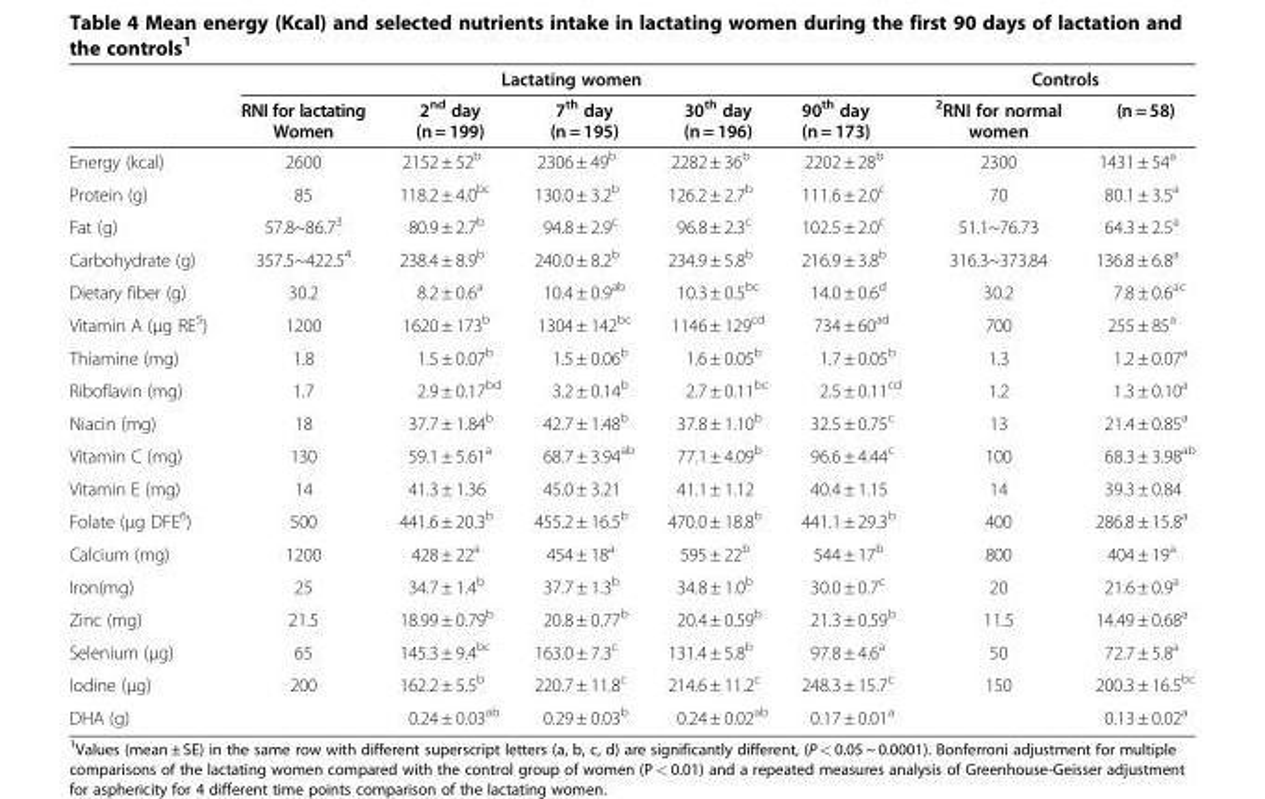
<table><thead><tr><td rowspan="2"></td><td colspan="5">Lactating women</td><td colspan="2">Controls</td></tr><tr><td>RNI for lactating Women</td><td>2<sup>nd</sup> day (n = 199)</td><td>7<sup>th</sup> day (n = 195)</td><td>30<sup>th</sup> day (n = 196)</td><td>90<sup>th</sup> day (n = 173)</td><td><sup>2</sup>RNI for normal women</td><td>(n = 58)</td></tr></thead><tbody><tr><td>Energy (kcal)</td><td>2600</td><td>2152 ± 52<sup>b</sup></td><td>2306 ± 49<sup>b</sup></td><td>2282 ± 36<sup>b</sup></td><td>2202 ± 28<sup>b</sup></td><td>2300</td><td>1431 ± 54<sup>a</sup></td></tr><tr><td>Protein (g)</td><td>85</td><td>118.2 ± 4.0<sup>bc</sup></td><td>130.0 ± 3.2<sup>b</sup></td><td>126.2 ± 2.7<sup>b</sup></td><td>111.6 ± 2.0<sup>c</sup></td><td>70</td><td>80.1 ± 3.5<sup>a</sup></td></tr><tr><td>Fat (g)</td><td>57.8~86.7<sup>3</sup></td><td>80.9 ± 2.7<sup>b</sup></td><td>94.8 ± 2.9<sup>c</sup></td><td>96.8 ± 2.3<sup>c</sup></td><td>102.5 ± 2.0<sup>c</sup></td><td>51.1~76.73</td><td>64.3 ± 2.5<sup>a</sup></td></tr><tr><td>Carbohydrate (g)</td><td>357.5~422.5<sup>4</sup></td><td>238.4 ± 8.9<sup>b</sup></td><td>240.0 ± 8.2<sup>b</sup></td><td>234.9 ± 5.8<sup>b</sup></td><td>216.9 ± 3.8<sup>b</sup></td><td>316.3~373.84</td><td>136.8 ± 6.8<sup>a</sup></td></tr><tr><td>Dietary fiber (g)</td><td>30.2</td><td>8.2 ± 0.6<sup>a</sup></td><td>10.4 ± 0.9<sup>ab</sup></td><td>10.3 ± 0.5<sup>bc</sup></td><td>14.0 ± 0.6<sup>d</sup></td><td>30.2</td><td>7.8 ± 0.6<sup>ac</sup></td></tr><tr><td>Vitamin A (μg RE<sup>5</sup>)</td><td>1200</td><td>1620 ± 173<sup>b</sup></td><td>1304 ± 142<sup>bc</sup></td><td>1146 ± 129<sup>cd</sup></td><td>734 ± 60<sup>ad</sup></td><td>700</td><td>255 ± 85<sup>a</sup></td></tr><tr><td>Thiamine (mg)</td><td>1.8</td><td>1.5 ± 0.07<sup>b</sup></td><td>1.5 ± 0.06<sup>b</sup></td><td>1.6 ± 0.05<sup>b</sup></td><td>1.7 ± 0.05<sup>b</sup></td><td>1.3</td><td>1.2 ± 0.07<sup>a</sup></td></tr><tr><td>Riboflavin (mg)</td><td>1.7</td><td>2.9 ± 0.17<sup>bd</sup></td><td>3.2 ± 0.14<sup>b</sup></td><td>2.7 ± 0.11<sup>bc</sup></td><td>2.5 ± 0.11<sup>cd</sup></td><td>1.2</td><td>1.3 ± 0.10<sup>a</sup></td></tr><tr><td>Niacin (mg)</td><td>18</td><td>37.7 ± 1.84<sup>b</sup></td><td>42.7 ± 1.48<sup>b</sup></td><td>37.8 ± 1.10<sup>b</sup></td><td>32.5 ± 0.75<sup>c</sup></td><td>13</td><td>21.4 ± 0.85<sup>a</sup></td></tr><tr><td>Vitamin C (mg)</td><td>130</td><td>59.1 ± 5.61<sup>a</sup></td><td>68.7 ± 3.94<sup>ab</sup></td><td>77.1 ± 4.09<sup>b</sup></td><td>96.6 ± 4.44<sup>c</sup></td><td>100</td><td>68.3 ± 3.98<sup>ab</sup></td></tr><tr><td>Vitamin E (mg)</td><td>14</td><td>41.3 ± 1.36</td><td>45.0 ± 3.21</td><td>41.1 ± 1.12</td><td>40.4 ± 1.15</td><td>14</td><td>39.3 ± 0.84</td></tr><tr><td>Folate (μg DFE<sup>6</sup>)</td><td>500</td><td>441.6 ± 20.3<sup>b</sup></td><td>455.2 ± 16.5<sup>b</sup></td><td>470.0 ± 18.8<sup>b</sup></td><td>441.1 ± 29.3<sup>b</sup></td><td>400</td><td>286.8 ± 15.8<sup>a</sup></td></tr><tr><td>Calcium (mg)</td><td>1200</td><td>428 ± 22<sup>a</sup></td><td>454 ± 18<sup>a</sup></td><td>595 ± 22<sup>b</sup></td><td>544 ± 17<sup>b</sup></td><td>800</td><td>404 ± 19<sup>a</sup></td></tr><tr><td>Iron(mg)</td><td>25</td><td>34.7 ± 1.4<sup>b</sup></td><td>37.7 ± 1.3<sup>b</sup></td><td>34.8 ± 1.0<sup>b</sup></td><td>30.0 ± 0.7<sup>c</sup></td><td>20</td><td>21.6 ± 0.9<sup>a</sup></td></tr><tr><td>Zinc (mg)</td><td>21.5</td><td>18.99 ± 0.79<sup>b</sup></td><td>20.8 ± 0.77<sup>b</sup></td><td>20.4 ± 0.59<sup>b</sup></td><td>21.3 ± 0.59<sup>b</sup></td><td>11.5</td><td>14.49 ± 0.68<sup>a</sup></td></tr><tr><td>Selenium (μg)</td><td>65</td><td>145.3 ± 9.4<sup>bc</sup></td><td>163.0 ± 7.3<sup>c</sup></td><td>131.4 ± 5.8<sup>b</sup></td><td>97.8 ± 4.6<sup>a</sup></td><td>50</td><td>72.7 ± 5.8<sup>a</sup></td></tr><tr><td>Iodine (μg)</td><td>200</td><td>162.2 ± 5.5<sup>b</sup></td><td>220.7 ± 11.8<sup>c</sup></td><td>214.6 ± 11.2<sup>c</sup></td><td>248.3 ± 15.7<sup>c</sup></td><td>150</td><td>200.3 ± 16.5<sup>bc</sup></td></tr><tr><td>DHA (g)</td><td></td><td>0.24 ± 0.03<sup>ab</sup></td><td>0.29 ± 0.03<sup>b</sup></td><td>0.24 ± 0.02<sup>ab</sup></td><td>0.17 ± 0.01<sup>a</sup></td><td></td><td>0.13 ± 0.02<sup>a</sup></td></tr></tbody></table>